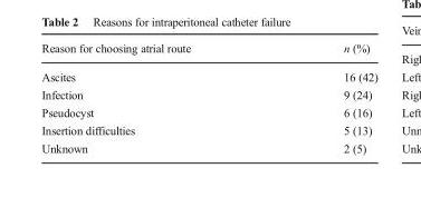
<table><thead><tr><td>Reason for choosing atrial route</td><td>n (%)</td></tr></thead><tbody><tr><td>Ascites</td><td>16 (42)</td></tr><tr><td>Infection</td><td>9 (24)</td></tr><tr><td>Pseudocyst</td><td>6 (16)</td></tr><tr><td>Insertion difficulties</td><td>5 (13)</td></tr><tr><td>Unknown</td><td>2 (5)</td></tr></tbody></table>